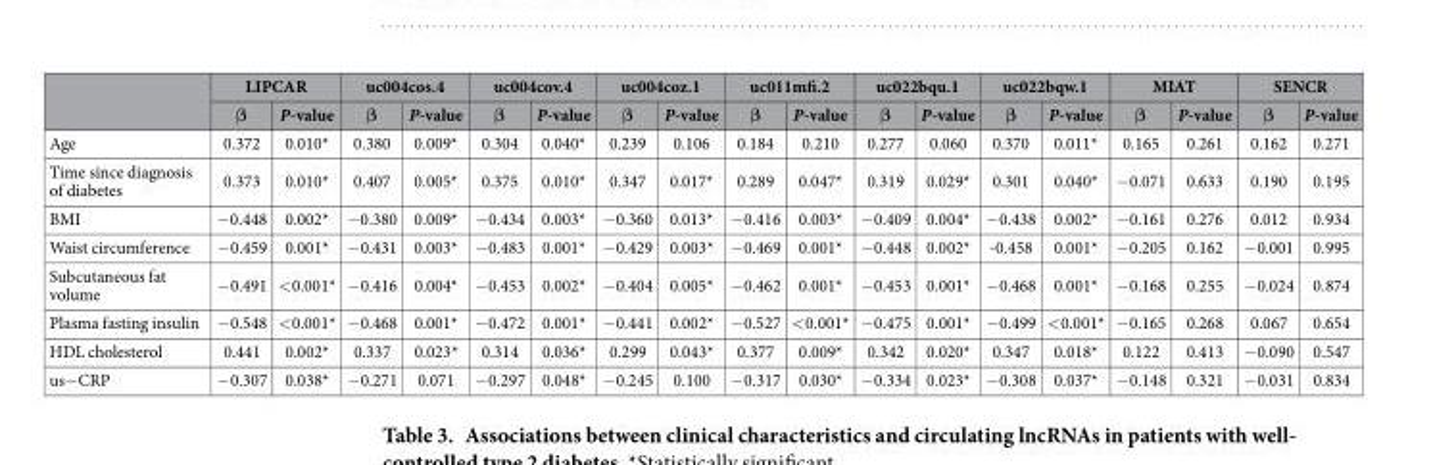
<table><thead><tr><td rowspan="2"></td><td colspan="2">LIPCAR</td><td colspan="2">uc004cos.4</td><td colspan="2">uc004cov.4</td><td colspan="2">uc004coz.1</td><td colspan="2">uc011mfi.2</td><td colspan="2">uc022bqu.1</td><td colspan="2">uc022bqw.1</td><td colspan="2">MIAT</td><td colspan="2">SENCR</td></tr><tr><td>β</td><td>P-value</td><td>β</td><td>P-value</td><td>β</td><td>P-value</td><td>β</td><td>P-value</td><td>β</td><td>P-value</td><td>β</td><td>P-value</td><td>β</td><td>P-value</td><td>β</td><td>P-value</td><td>β</td><td>P-value</td></tr></thead><tbody><tr><td>Age</td><td>0.372</td><td>0.010*</td><td>0.380</td><td>0.009*</td><td>0.304</td><td>0.040*</td><td>0.239</td><td>0.106</td><td>0.184</td><td>0.210</td><td>0.277</td><td>0.060</td><td>0.370</td><td>0.011*</td><td>0.165</td><td>0.261</td><td>0.162</td><td>0.271</td></tr><tr><td>Time since diagnosis of diabetes</td><td>0.373</td><td>0.010*</td><td>0.407</td><td>0.005*</td><td>0.375</td><td>0.010*</td><td>0.347</td><td>0.017*</td><td>0.289</td><td>0.047*</td><td>0.319</td><td>0.029*</td><td>0.301</td><td>0.040*</td><td>− 0.071</td><td>0.633</td><td>0.190</td><td>0.195</td></tr><tr><td>BMI</td><td>− 0.448</td><td>0.002*</td><td>− 0.380</td><td>0.009*</td><td>− 0.434</td><td>0.003*</td><td>− 0.360</td><td>0.013*</td><td>− 0.416</td><td>0.003*</td><td>− 0.409</td><td>0.004*</td><td>− 0.438</td><td>0.002*</td><td>− 0.161</td><td>0.276</td><td>0.012</td><td>0.934</td></tr><tr><td>Waist circumference</td><td>− 0.459</td><td>0.001*</td><td>− 0.431</td><td>0.003*</td><td>− 0.483</td><td>0.001*</td><td>− 0.429</td><td>0.003*</td><td>− 0.469</td><td>0.001*</td><td>− 0.448</td><td>0.002*</td><td>-0.458</td><td>0.001*</td><td>− 0.205</td><td>0.162</td><td>− 0.001</td><td>0.995</td></tr><tr><td>Subcutaneous fat volume</td><td>− 0.491</td><td>&lt; 0.001*</td><td>− 0.416</td><td>0.004*</td><td>− 0.453</td><td>0.002*</td><td>− 0.404</td><td>0.005*</td><td>− 0.462</td><td>0.001*</td><td>− 0.453</td><td>0.001*</td><td>− 0.468</td><td>0.001*</td><td>− 0.168</td><td>0.255</td><td>− 0.024</td><td>0.874</td></tr><tr><td>Plasma fasting insulin</td><td>− 0.548</td><td>&lt; 0.001*</td><td>− 0.468</td><td>0.001*</td><td>− 0.472</td><td>0.001*</td><td>− 0.441</td><td>0.002*</td><td>− 0.527</td><td>&lt; 0.001*</td><td>− 0.475</td><td>0.001*</td><td>− 0.499</td><td>&lt; 0.001*</td><td>− 0.165</td><td>0.268</td><td>0.067</td><td>0.654</td></tr><tr><td>HDL cholesterol</td><td>0.441</td><td>0.002*</td><td>0.337</td><td>0.023*</td><td>0.314</td><td>0.036*</td><td>0.299</td><td>0.043*</td><td>0.377</td><td>0.009*</td><td>0.342</td><td>0.020*</td><td>0.347</td><td>0.018*</td><td>0.122</td><td>0.413</td><td>− 0.090</td><td>0.547</td></tr><tr><td>us− CRP</td><td>− 0.307</td><td>0.038*</td><td>− 0.271</td><td>0.071</td><td>− 0.297</td><td>0.048*</td><td>− 0.245</td><td>0.100</td><td>− 0.317</td><td>0.030*</td><td>− 0.334</td><td>0.023*</td><td>− 0.308</td><td>0.037*</td><td>− 0.148</td><td>0.321</td><td>− 0.031</td><td>0.834</td></tr></tbody></table>